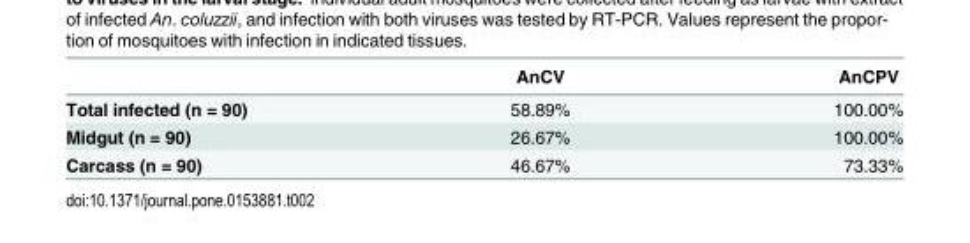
<table><thead><tr><td></td><td>AnCV</td><td>AnCPV</td></tr></thead><tbody><tr><td>Total infected (n = 90)</td><td>58.89%</td><td>100.00%</td></tr><tr><td>Midgut (n = 90)</td><td>26.67%</td><td>100.00%</td></tr><tr><td>Carcass (n = 90)</td><td>46.67%</td><td>73.33%</td></tr></tbody></table>